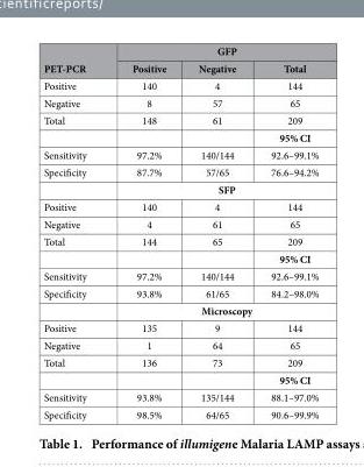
<table><thead><tr><td rowspan="2">PET-PCR</td><td colspan="3">GFP</td></tr><tr><td>Positive</td><td>Negative</td><td>Total</td></tr></thead><tbody><tr><td>Positive</td><td>140</td><td>4</td><td>144</td></tr><tr><td>Negative</td><td>8</td><td>57</td><td>65</td></tr><tr><td rowspan="2">Total</td><td>148</td><td>61</td><td>209</td></tr><tr><td></td><td></td><td>95% CI</td></tr><tr><td>Sensitivity</td><td>97.2%</td><td>140/144</td><td>92.6–99.1%</td></tr><tr><td rowspan="2">Specificity</td><td>87.7%</td><td>57/65</td><td>76.6–94.2%</td></tr><tr><td colspan="3">SFP</td></tr><tr><td>Positive</td><td>140</td><td>4</td><td>144</td></tr><tr><td>Negative</td><td>4</td><td>61</td><td>65</td></tr><tr><td rowspan="2">Total</td><td>144</td><td>65</td><td>209</td></tr><tr><td></td><td></td><td>95% CI</td></tr><tr><td>Sensitivity</td><td>97.2%</td><td>140/144</td><td>92.6–99.1%</td></tr><tr><td rowspan="2">Specificity</td><td>93.8%</td><td>61/65</td><td>84.2–98.0%</td></tr><tr><td colspan="3">Microscopy</td></tr><tr><td>Positive</td><td>135</td><td>9</td><td>144</td></tr><tr><td>Negative</td><td>1</td><td>64</td><td>65</td></tr><tr><td rowspan="2">Total</td><td>136</td><td>73</td><td>209</td></tr><tr><td></td><td></td><td>95% CI</td></tr><tr><td>Sensitivity</td><td>93.8%</td><td>135/144</td><td>88.1–97.0%</td></tr><tr><td>Specificity</td><td>98.5%</td><td>64/65</td><td>90.6–99.9%</td></tr></tbody></table>